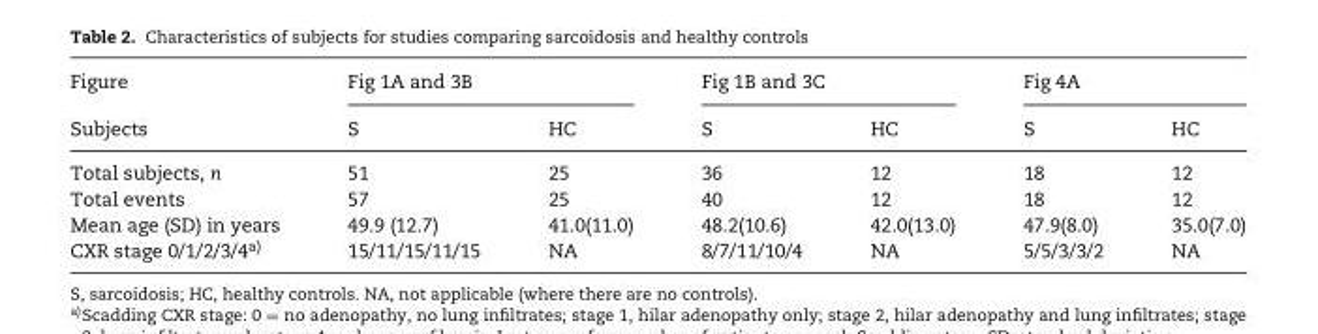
<table><thead><tr><td rowspan="2">Figure Subjects</td><td colspan="2">Fig 1A and 3B</td><td colspan="2">Fig 1B and 3C</td><td colspan="2">Fig 4A</td></tr><tr><td>S</td><td>HC</td><td>S</td><td>HC</td><td>S</td><td>HC</td></tr></thead><tbody><tr><td>Total subjects, n</td><td>51</td><td>25</td><td>36</td><td>12</td><td>18</td><td>12</td></tr><tr><td>Total events</td><td>57</td><td>25</td><td>40</td><td>12</td><td>18</td><td>12</td></tr><tr><td>Mean age (SD) in years</td><td>49.9 (12.7)</td><td>41.0(11.0)</td><td>48.2(10.6)</td><td>42.0(13.0)</td><td>47.9(8.0)</td><td>35.0(7.0)</td></tr><tr><td>CXR stage 0/1/2/3/4a)</td><td>15/11/15/11/15</td><td>NA</td><td>8/7/11/10/4</td><td>NA</td><td>5/5/3/3/2</td><td>NA</td></tr></tbody></table>